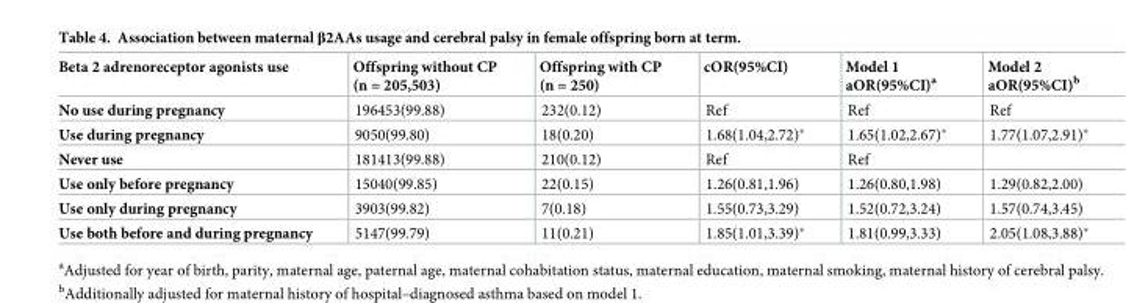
<table><thead><tr><td>Beta 2 adrenoreceptor agonists use</td><td>Offspring without CP (n = 205,503)</td><td>Offspring with CP (n = 250)</td><td>cOR(95%CI)</td><td>Model 1 aOR(95%CI)<sup>a</sup></td><td>Model 2 aOR(95%CI)<sup>b</sup></td></tr></thead><tbody><tr><td>No use during pregnancy</td><td>196453(99.88)</td><td>232(0.12)</td><td>Ref</td><td>Ref</td><td>Ref</td></tr><tr><td>Use during pregnancy</td><td>9050(99.80)</td><td>18(0.20)</td><td>1.68(1.04,2.72)*</td><td>1.65(1.02,2.67)*</td><td>1.77(1.07,2.91)*</td></tr><tr><td>Never use</td><td>181413(99.88)</td><td>210(0.12)</td><td>Ref</td><td>Ref</td><td></td></tr><tr><td>Use only before pregnancy</td><td>15040(99.85)</td><td>22(0.15)</td><td>1.26(0.81,1.96)</td><td>1.26(0.80,1.98)</td><td>1.29(0.82,2.00)</td></tr><tr><td>Use only during pregnancy</td><td>3903(99.82)</td><td>7(0.18)</td><td>1.55(0.73,3.29)</td><td>1.52(0.72,3.24)</td><td>1.57(0.74,3.45)</td></tr><tr><td>Use both before and during pregnancy</td><td>5147(99.79)</td><td>11(0.21)</td><td>1.85(1.01,3.39)*</td><td>1.81(0.99,3.33)</td><td>2.05(1.08,3.88)*</td></tr></tbody></table>